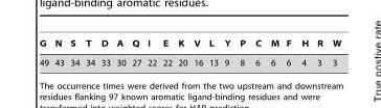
<table><thead><tr><td>G</td><td>N</td><td>S</td><td>T</td><td>D</td><td>A</td><td>Q</td><td>I</td><td>E</td><td>K</td><td>V</td><td>L</td><td>Y</td><td>P</td><td>C</td><td>M</td><td>F</td><td>H</td><td>R</td><td>W</td></tr></thead><tbody><tr><td>49</td><td>43</td><td>34</td><td>34</td><td>33</td><td>30</td><td>27</td><td>22</td><td>22</td><td>20</td><td>16</td><td>13</td><td>9</td><td>8</td><td>6</td><td>6</td><td>6</td><td>4</td><td>3</td><td>3</td></tr></tbody></table>